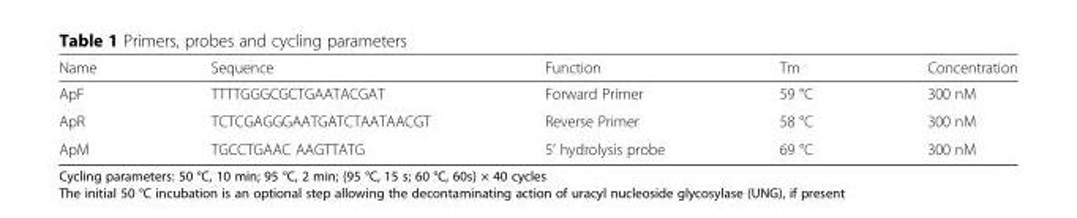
<table><thead><tr><td>Name</td><td>Sequence</td><td>Function</td><td>Tm</td><td>Concentration</td></tr></thead><tbody><tr><td>ApF</td><td>TTTTGGGCGCTGAATACGAT</td><td>Forward Primer</td><td>59 °C</td><td>300 nM</td></tr><tr><td>ApR</td><td>TCTCGAGGGAATGATCTAATAACGT</td><td>Reverse Primer</td><td>58 °C</td><td>300 nM</td></tr><tr><td>ApM</td><td>TGCCTGAAC AAGTTATG</td><td>5’ hydrolysis probe</td><td>69 °C</td><td>300 nM</td></tr></tbody></table>